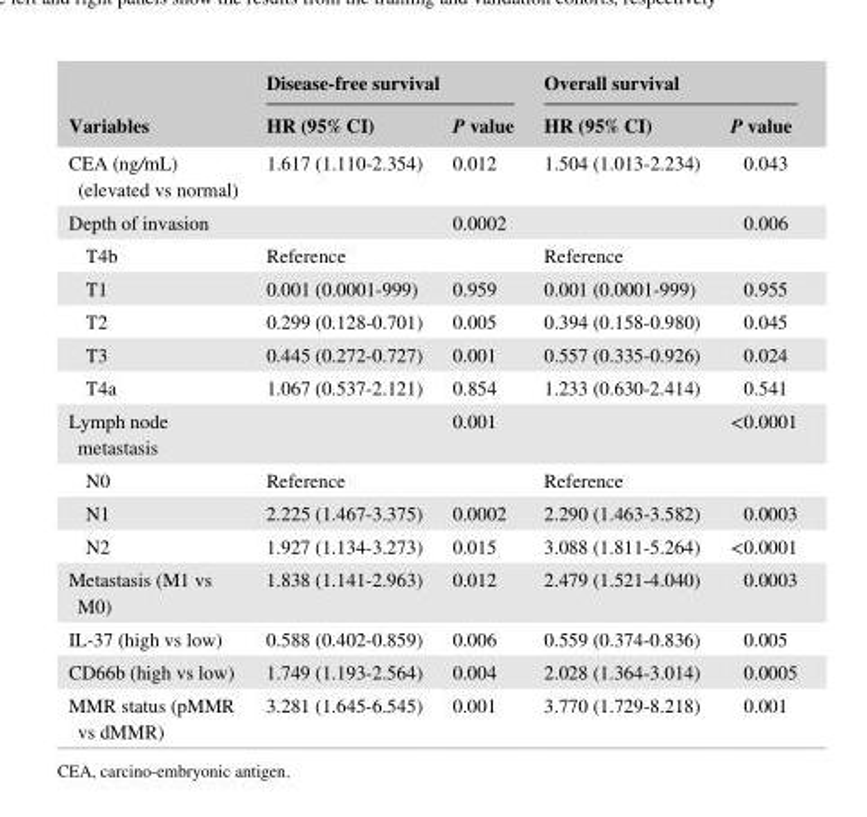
<table><thead><tr><td rowspan="2">Variables</td><td colspan="2">Disease- free survival</td><td colspan="2">Overall survival</td></tr><tr><td>HR (95% CI)</td><td>P value</td><td>HR (95% CI)</td><td>P value</td></tr></thead><tbody><tr><td>CEA (ng/mL) (elevated vs normal)</td><td>1.617 (1.110- 2.354)</td><td>0.012</td><td>1.504 (1.013- 2.234)</td><td>0.043</td></tr><tr><td>Depth of invasion</td><td></td><td>0.0002</td><td></td><td>0.006</td></tr><tr><td>T4b</td><td>Reference</td><td></td><td>Reference</td><td></td></tr><tr><td>T1</td><td>0.001 (0.0001- 999)</td><td>0.959</td><td>0.001 (0.0001- 999)</td><td>0.955</td></tr><tr><td>T2</td><td>0.299 (0.128- 0.701)</td><td>0.005</td><td>0.394 (0.158- 0.980)</td><td>0.045</td></tr><tr><td>T3</td><td>0.445 (0.272- 0.727)</td><td>0.001</td><td>0.557 (0.335- 0.926)</td><td>0.024</td></tr><tr><td>T4a</td><td>1.067 (0.537- 2.121)</td><td>0.854</td><td>1.233 (0.630- 2.414)</td><td>0.541</td></tr><tr><td>Lymph node metastasis</td><td></td><td>0.001</td><td></td><td>&lt;0.0001</td></tr><tr><td>N0</td><td>Reference</td><td></td><td>Reference</td><td></td></tr><tr><td>N1</td><td>2.225 (1.467- 3.375)</td><td>0.0002</td><td>2.290 (1.463- 3.582)</td><td>0.0003</td></tr><tr><td>N2</td><td>1.927 (1.134- 3.273)</td><td>0.015</td><td>3.088 (1.811- 5.264)</td><td>&lt;0.0001</td></tr><tr><td>Metastasis (M1 vs M0)</td><td>1.838 (1.141- 2.963)</td><td>0.012</td><td>2.479 (1.521- 4.040)</td><td>0.0003</td></tr><tr><td>IL- 37 (high vs low)</td><td>0.588 (0.402- 0.859)</td><td>0.006</td><td>0.559 (0.374- 0.836)</td><td>0.005</td></tr><tr><td>CD66b (high vs low)</td><td>1.749 (1.193- 2.564)</td><td>0.004</td><td>2.028 (1.364- 3.014)</td><td>0.0005</td></tr><tr><td>MMR status (pMMR vs dMMR)</td><td>3.281 (1.645- 6.545)</td><td>0.001</td><td>3.770 (1.729- 8.218)</td><td>0.001</td></tr></tbody></table>